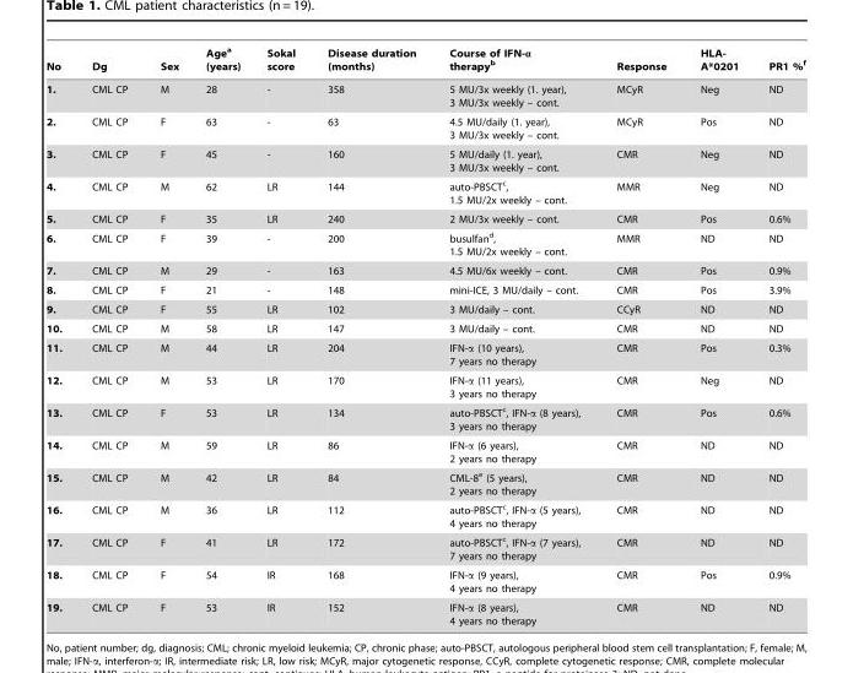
<table><thead><tr><td>No</td><td>Dg</td><td>Sex</td><td>Age<sup>a</sup> (years)</td><td>Sokal score</td><td>Disease duration (months)</td><td>Course of IFN-α therapy<sup>b</sup></td><td>Response</td><td>HLA- A*0201</td><td>PR1 %<sup>f</sup></td></tr></thead><tbody><tr><td>1.</td><td>CML CP</td><td>M</td><td>28</td><td>-</td><td>358</td><td>5 MU/3x weekly (1. year), 3 MU/3x weekly – cont.</td><td>MCyR</td><td>Neg</td><td>ND</td></tr><tr><td>2.</td><td>CML CP</td><td>F</td><td>63</td><td>-</td><td>63</td><td>4.5 MU/daily (1. year), 3 MU/3x weekly – cont.</td><td>MCyR</td><td>Pos</td><td>ND</td></tr><tr><td>3.</td><td>CML CP</td><td>F</td><td>45</td><td>-</td><td>160</td><td>5 MU/daily (1. year), 3 MU/3x weekly – cont.</td><td>CMR</td><td>Neg</td><td>ND</td></tr><tr><td>4.</td><td>CML CP</td><td>M</td><td>62</td><td>LR</td><td>144</td><td>auto-PBSCT<sup>c</sup>, 1.5 MU/2x weekly – cont.</td><td>MMR</td><td>Neg</td><td>ND</td></tr><tr><td>5.</td><td>CML CP</td><td>F</td><td>35</td><td>LR</td><td>240</td><td>2 MU/3x weekly – cont.</td><td>CMR</td><td>Pos</td><td>0.6%</td></tr><tr><td>6.</td><td>CML CP</td><td>F</td><td>39</td><td>-</td><td>200</td><td>busulfan<sup>d</sup>, 1.5 MU/2x weekly – cont.</td><td>MMR</td><td>ND</td><td>ND</td></tr><tr><td>7.</td><td>CML CP</td><td>M</td><td>29</td><td>-</td><td>163</td><td>4.5 MU/6x weekly – cont.</td><td>CMR</td><td>Pos</td><td>0.9%</td></tr><tr><td>8.</td><td>CML CP</td><td>F</td><td>21</td><td>-</td><td>148</td><td>mini-ICE, 3 MU/daily – cont.</td><td>CMR</td><td>Pos</td><td>3.9%</td></tr><tr><td>9.</td><td>CML CP</td><td>F</td><td>55</td><td>LR</td><td>102</td><td>3 MU/daily – cont.</td><td>CCyR</td><td>ND</td><td>ND</td></tr><tr><td>10.</td><td>CML CP</td><td>M</td><td>58</td><td>LR</td><td>147</td><td>3 MU/daily – cont.</td><td>CMR</td><td>ND</td><td>ND</td></tr><tr><td>11.</td><td>CML CP</td><td>M</td><td>44</td><td>LR</td><td>204</td><td>IFN-α (10 years), 7 years no therapy</td><td>CMR</td><td>Pos</td><td>0.3%</td></tr><tr><td>12.</td><td>CML CP</td><td>M</td><td>53</td><td>LR</td><td>170</td><td>IFN-α (11 years), 3 years no therapy</td><td>CMR</td><td>Neg</td><td>ND</td></tr><tr><td>13.</td><td>CML CP</td><td>F</td><td>53</td><td>LR</td><td>134</td><td>auto-PBSCT<sup>c</sup>, IFN-α (8 years), 3 years no therapy</td><td>CMR</td><td>Pos</td><td>0.6%</td></tr><tr><td>14.</td><td>CML CP</td><td>M</td><td>59</td><td>LR</td><td>86</td><td>IFN-α (6 years), 2 years no therapy</td><td>CMR</td><td>ND</td><td>ND</td></tr><tr><td>15.</td><td>CML CP</td><td>M</td><td>42</td><td>LR</td><td>84</td><td>CML-8<sup>e</sup> (5 years), 2 years no therapy</td><td>CMR</td><td>ND</td><td>ND</td></tr><tr><td>16.</td><td>CML CP</td><td>M</td><td>36</td><td>LR</td><td>112</td><td>auto-PBSCT<sup>c</sup>, IFN-α (5 years), 4 years no therapy</td><td>CMR</td><td>ND</td><td>ND</td></tr><tr><td>17.</td><td>CML CP</td><td>F</td><td>41</td><td>LR</td><td>172</td><td>auto-PBSCT<sup>c</sup>, IFN-α (7 years), 7 years no therapy</td><td>CMR</td><td>ND</td><td>ND</td></tr><tr><td>18.</td><td>CML CP</td><td>F</td><td>54</td><td>IR</td><td>168</td><td>IFN-α (9 years), 4 years no therapy</td><td>CMR</td><td>Pos</td><td>0.9%</td></tr><tr><td>19.</td><td>CML CP</td><td>F</td><td>53</td><td>IR</td><td>152</td><td>IFN-α (8 years), 4 years no therapy</td><td>CMR</td><td>ND</td><td>ND</td></tr></tbody></table>